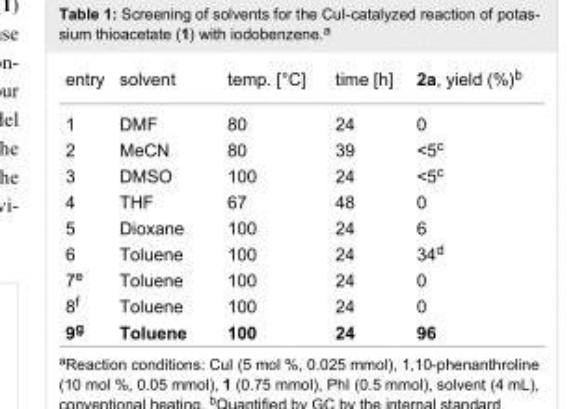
<table><tbody><tr><td>entry</td><td>solvent</td><td>temp. [°C]</td><td>time [h]</td><td>2a, yield (%)<sup>b</sup></td></tr><tr><td>1</td><td>DMF</td><td>80</td><td>24</td><td>0</td></tr><tr><td>2</td><td>MeCN</td><td>80</td><td>39</td><td>&lt;5<sup>c</sup></td></tr><tr><td>3</td><td>DMSO</td><td>100</td><td>24</td><td>&lt;5<sup>c</sup></td></tr><tr><td>4</td><td>THF</td><td>67</td><td>48</td><td>0</td></tr><tr><td>5</td><td>Dioxane</td><td>100</td><td>24</td><td>6</td></tr><tr><td>6</td><td>Toluene</td><td>100</td><td>24</td><td>34<sup>d</sup></td></tr><tr><td>7<sup>e</sup></td><td>Toluene</td><td>100</td><td>24</td><td>0</td></tr><tr><td>8<sup>f</sup></td><td>Toluene</td><td>100</td><td>24</td><td>0</td></tr><tr><td>9<sup>g</sup></td><td>Toluene</td><td>100</td><td>24</td><td>96</td></tr></tbody></table>